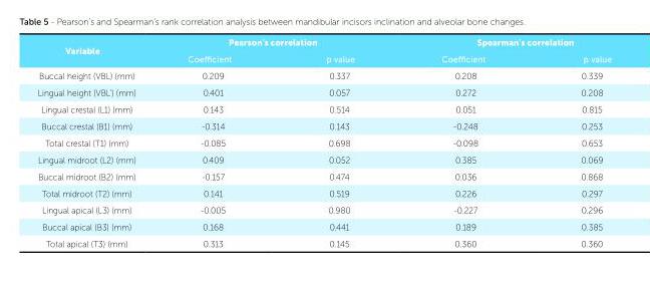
<table><tbody><tr><td rowspan="2">Variable</td><td colspan="2">Pearson&#x27;s correlation</td><td colspan="2">Spearman&#x27;s correlation</td></tr><tr><td>Coefficient</td><td>p value</td><td>Coefficient</td><td>p value</td></tr><tr><td>Buccal height (VBL) (mm)</td><td>0.209</td><td>0.337</td><td>0.208</td><td>0.339</td></tr><tr><td>Lingual height (VBL’) (mm)</td><td>0.401</td><td>0.057</td><td>0.272</td><td>0.208</td></tr><tr><td>Lingual crestal (L1) (mm)</td><td>0.143</td><td>0.514</td><td>0.051</td><td>0.815</td></tr><tr><td>Buccal crestal (B1) (mm)</td><td>-0.314</td><td>0.143</td><td>-0.248</td><td>0.253</td></tr><tr><td>Total crestal (T1) (mm)</td><td>-0.085</td><td>0.698</td><td>-0.098</td><td>0.653</td></tr><tr><td>Lingual midroot (L2) (mm)</td><td>0.409</td><td>0.052</td><td>0.385</td><td>0.069</td></tr><tr><td>Buccal midroot (B2) (mm)</td><td>-0.157</td><td>0.474</td><td>0.036</td><td>0.868</td></tr><tr><td>Total midroot (T2) (mm)</td><td>0.141</td><td>0.519</td><td>0.226</td><td>0.297</td></tr><tr><td>Lingual apical (L3) (mm)</td><td>-0.005</td><td>0.980</td><td>-0.227</td><td>0.296</td></tr><tr><td>Buccal apical (B3) (mm)</td><td>0.168</td><td>0.441</td><td>0.189</td><td>0.385</td></tr><tr><td>Total apical (T3) (mm)</td><td>0.313</td><td>0.145</td><td>0.360</td><td>0.360</td></tr></tbody></table>